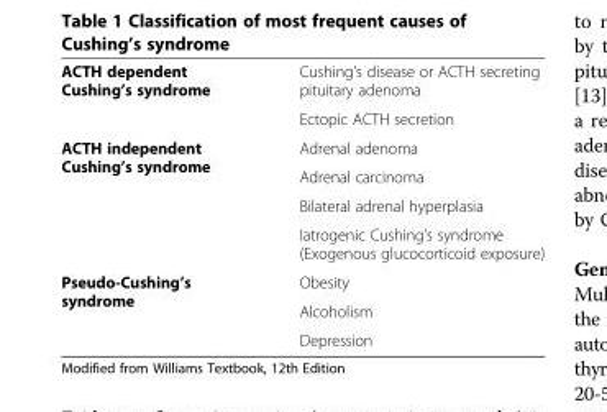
<table><tbody><tr><td rowspan="2">ACTH dependent Cushing’s syndrome</td><td>Cushing’s disease or ACTH secreting pituitary adenoma</td></tr><tr><td>Ectopic ACTH secretion</td></tr><tr><td rowspan="4">ACTH independent Cushing’s syndrome</td><td>Adrenal adenoma</td></tr><tr><td>Adrenal carcinoma</td></tr><tr><td>Bilateral adrenal hyperplasia</td></tr><tr><td>Iatrogenic Cushing’s syndrome (Exogenous glucocorticoid exposure)</td></tr><tr><td rowspan="3">Pseudo-Cushing’s syndrome</td><td>Obesity</td></tr><tr><td>Alcoholism</td></tr><tr><td>Depression</td></tr></tbody></table>